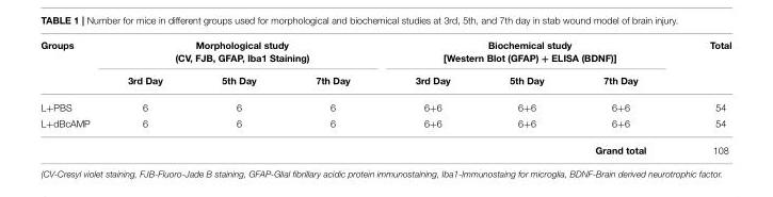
<table><thead><tr><td rowspan="2">Groups</td><td colspan="3">Morphological study (CV, FJB, GFAP, Iba1 Staining)</td><td colspan="3">Biochemical study [Western Blot (GFAP) + ELISA (BDNF)]</td><td rowspan="2">Total</td></tr><tr><td>3rd Day</td><td>5th Day</td><td>7th Day</td><td>3rd Day</td><td>5th Day</td><td>7th Day</td></tr></thead><tbody><tr><td>L+PBS</td><td>6</td><td>6</td><td>6</td><td>6+6</td><td>6+6</td><td>6+6</td><td>54</td></tr><tr><td rowspan="2">L+dBcAMP</td><td>6</td><td>6</td><td>6</td><td>6+6</td><td>6+6</td><td>6+6</td><td>54</td></tr><tr><td></td><td></td><td></td><td></td><td></td><td>Grand total</td><td>108</td></tr></tbody></table>